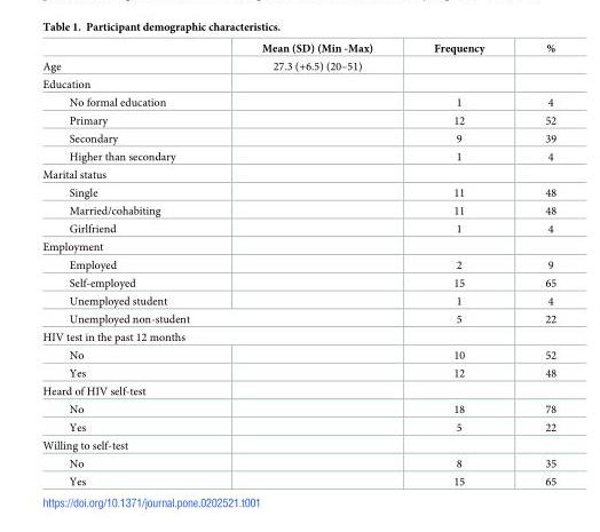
<table><thead><tr><td></td><td>Mean (SD) (Min -Max)</td><td>Frequency</td><td>%</td></tr></thead><tbody><tr><td>Age</td><td>27.3 (+6.5) (20–51)</td><td></td><td></td></tr><tr><td colspan="4">Education</td></tr><tr><td>No formal education</td><td></td><td>1</td><td>4</td></tr><tr><td>Primary</td><td></td><td>12</td><td>52</td></tr><tr><td>Secondary</td><td></td><td>9</td><td>39</td></tr><tr><td>Higher than secondary</td><td></td><td>1</td><td>4</td></tr><tr><td colspan="4">Marital status</td></tr><tr><td>Single</td><td></td><td>11</td><td>48</td></tr><tr><td>Married/cohabiting</td><td></td><td>11</td><td>48</td></tr><tr><td>Girlfriend</td><td></td><td>1</td><td>4</td></tr><tr><td colspan="4">Employment</td></tr><tr><td>Employed</td><td></td><td>2</td><td>9</td></tr><tr><td>Self-employed</td><td></td><td>15</td><td>65</td></tr><tr><td>Unemployed student</td><td></td><td>1</td><td>4</td></tr><tr><td colspan="2">Unemployed non-student</td><td>5</td><td>22</td></tr><tr><td colspan="4">HIV test in the past 12 months</td></tr><tr><td>No</td><td></td><td>10</td><td>52</td></tr><tr><td>Yes</td><td></td><td>12</td><td>48</td></tr><tr><td colspan="4">Heard of HIV self-test</td></tr><tr><td>No</td><td></td><td>18</td><td>78</td></tr><tr><td>Yes</td><td></td><td>5</td><td>22</td></tr><tr><td colspan="4">Willing to self-test</td></tr><tr><td>No</td><td></td><td>8</td><td>35</td></tr><tr><td>Yes</td><td></td><td>15</td><td>65</td></tr></tbody></table>